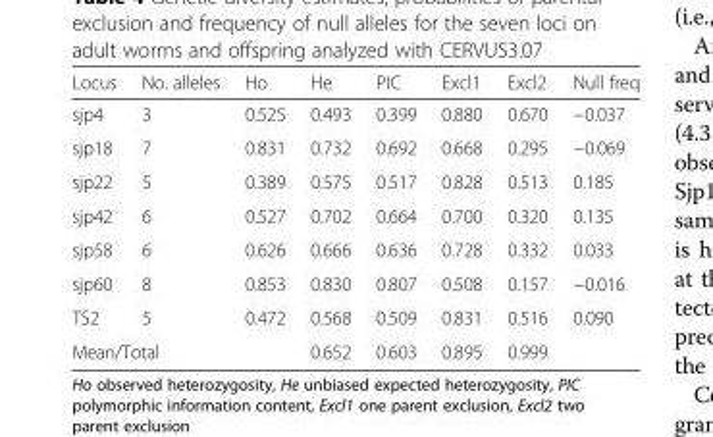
<table><thead><tr><td>Locus</td><td>No. alleles</td><td>Ho</td><td>He</td><td>PIC</td><td>Excl1</td><td>Excl2</td><td>Null freq</td></tr></thead><tbody><tr><td>sjp4</td><td>3</td><td>0.525</td><td>0.493</td><td>0.399</td><td>0.880</td><td>0.670</td><td>−0.037</td></tr><tr><td>sjp18</td><td>7</td><td>0.831</td><td>0.732</td><td>0.692</td><td>0.668</td><td>0.295</td><td>−0.069</td></tr><tr><td>sjp22</td><td>5</td><td>0.389</td><td>0.575</td><td>0.517</td><td>0.828</td><td>0.513</td><td>0.185</td></tr><tr><td>sjp42</td><td>6</td><td>0.527</td><td>0.702</td><td>0.664</td><td>0.700</td><td>0.320</td><td>0.135</td></tr><tr><td>sjp58</td><td>6</td><td>0.626</td><td>0.666</td><td>0.636</td><td>0.728</td><td>0.332</td><td>0.033</td></tr><tr><td>sjp60</td><td>8</td><td>0.853</td><td>0.830</td><td>0.807</td><td>0.508</td><td>0.157</td><td>−0.016</td></tr><tr><td>TS2</td><td>5</td><td>0.472</td><td>0.568</td><td>0.509</td><td>0.831</td><td>0.516</td><td>0.090</td></tr><tr><td colspan="2">Mean/Total</td><td></td><td>0.652</td><td>0.603</td><td>0.895</td><td>0.999</td><td></td></tr></tbody></table>